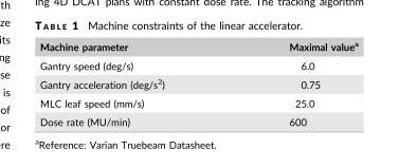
<table><thead><tr><td>Machine parameter</td><td>Maximal value<sup>a</sup></td></tr></thead><tbody><tr><td>Gantry speed (deg/s)</td><td>6.0</td></tr><tr><td>Gantry acceleration (deg/s<sup>2</sup>)</td><td>0.75</td></tr><tr><td>MLC leaf speed (mm/s)</td><td>25.0</td></tr><tr><td>Dose rate (MU/min)</td><td>600</td></tr></tbody></table>